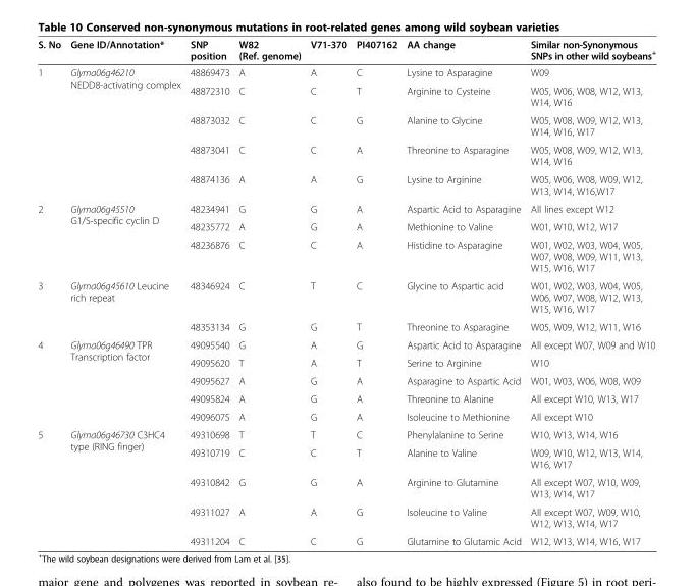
<table><thead><tr><td>S. No</td><td>Gene ID/Annotation*</td><td>SNP position</td><td>W82 (Ref. genome)</td><td>V71-370</td><td>PI407162</td><td>AA change</td><td>Similar non-Synonymous SNPs in other wild soybeans<sup>+</sup></td></tr></thead><tbody><tr><td rowspan="5">1</td><td rowspan="5">Glyma06g46210 NEDD8-activating complex</td><td>48869473</td><td>A</td><td>A</td><td>C</td><td>Lysine to Asparagine</td><td>W09</td></tr><tr><td>48872310</td><td>C</td><td>C</td><td>T</td><td>Arginine to Cysteine</td><td>W05, W06, W08, W12, W13, W14, W16</td></tr><tr><td>48873032</td><td>C</td><td>C</td><td>G</td><td>Alanine to Glycine</td><td>W05, W08, W09, W12, W13, W14, W16, W17</td></tr><tr><td>48873041</td><td>C</td><td>C</td><td>A</td><td>Threonine to Asparagine</td><td>W05, W08, W09, W12, W13, W14, W16</td></tr><tr><td>48874136</td><td>A</td><td>A</td><td>G</td><td>Lysine to Arginine</td><td>W05, W06, W08, W09, W12, W13, W14, W16,W17</td></tr><tr><td rowspan="3">2</td><td rowspan="3">Glyma06g45510 G1/S-specific cyclin D</td><td>48234941</td><td>G</td><td>G</td><td>A</td><td>Aspartic Acid to Asparagine</td><td>All lines except W12</td></tr><tr><td>48235772</td><td>A</td><td>G</td><td>A</td><td>Methionine to Valine</td><td>W01, W10, W12, W17</td></tr><tr><td>48236876</td><td>C</td><td>C</td><td>A</td><td>Histidine to Asparagine</td><td>W01, W02, W03, W04, W05, W07, W08, W09, W11, W13, W15, W16, W17</td></tr><tr><td rowspan="2">3</td><td rowspan="2">Glyma06g45610 Leucine rich repeat</td><td>48346924</td><td>C</td><td>T</td><td>C</td><td>Glycine to Aspartic acid</td><td>W01, W02, W03, W04, W05, W06, W07, W08, W12, W13, W15, W16, W17</td></tr><tr><td>48353134</td><td>G</td><td>G</td><td>T</td><td>Threonine to Asparagine</td><td>W05, W09, W12, W11, W16</td></tr><tr><td rowspan="5">4</td><td rowspan="5">Glyma06g46490 TPR Transcription factor</td><td>49095540</td><td>G</td><td>A</td><td>G</td><td>Aspartic Acid to Asparagine</td><td>All except W07, W09 and W10</td></tr><tr><td>49095620</td><td>T</td><td>A</td><td>T</td><td>Serine to Arginine</td><td>W10</td></tr><tr><td>49095627</td><td>A</td><td>G</td><td>A</td><td>Asparagine to Aspartic Acid</td><td>W01, W03, W06, W08, W09</td></tr><tr><td>49095824</td><td>A</td><td>G</td><td>A</td><td>Threonine to Alanine</td><td>All except W10, W13, W17</td></tr><tr><td>49096075</td><td>A</td><td>G</td><td>A</td><td>Isoleucine to Methionine</td><td>All except W10</td></tr><tr><td rowspan="5">5</td><td rowspan="5">Glyma06g46730 C3HC4 type (RING finger)</td><td>49310698</td><td>T</td><td>T</td><td>C</td><td>Phenylalanine to Serine</td><td>W10, W13, W14, W16</td></tr><tr><td>49310719</td><td>C</td><td>C</td><td>T</td><td>Alanine to Valine</td><td>W09, W10, W12, W13, W14, W16, W17</td></tr><tr><td>49310842</td><td>G</td><td>G</td><td>A</td><td>Arginine to Glutamine</td><td>All except W07, W10, W09, W13, W14, W17</td></tr><tr><td>49311027</td><td>A</td><td>A</td><td>G</td><td>Isoleucine to Valine</td><td>All except W07, W09, W10, W12, W13, W14, W17</td></tr><tr><td>49311204</td><td>C</td><td>C</td><td>G</td><td>Glutamine to Glutamic Acid</td><td>W12, W13, W14, W16, W17</td></tr></tbody></table>